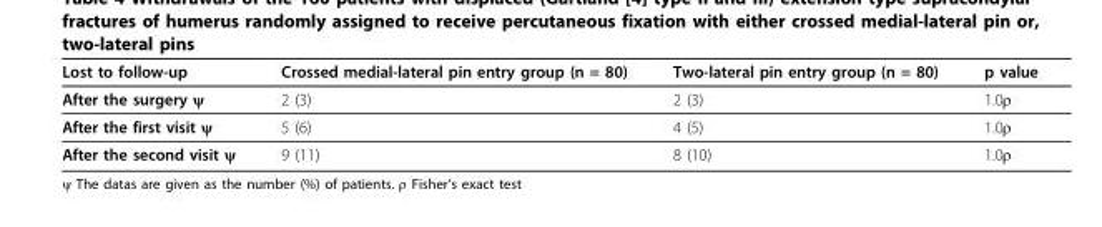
<table><thead><tr><td>Lost to follow-up</td><td>Crossed medial-lateral pin entry group (n = 80)</td><td>Two-lateral pin entry group (n = 80)</td><td>p value</td></tr></thead><tbody><tr><td>After the surgery ψ</td><td>2 (3)</td><td>2 (3)</td><td>1.0ρ</td></tr><tr><td>After the first visit ψ</td><td>5 (6)</td><td>4 (5)</td><td>1.0ρ</td></tr><tr><td>After the second visit ψ</td><td>9 (11)</td><td>8 (10)</td><td>1.0ρ</td></tr></tbody></table>